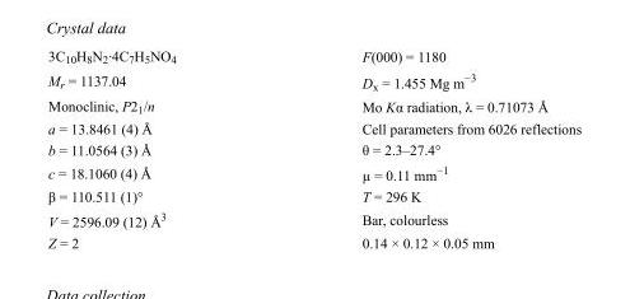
<table><tbody><tr><td>3C<sub>10</sub>H<sub>8</sub>N<sub>2</sub>·4C<sub>7</sub>H<sub>5</sub>NO<sub>4</sub></td><td>F(000) = 1180</td></tr><tr><td>M<sub>r</sub> = 1137.04</td><td>D<sub>x</sub> = 1.455 Mg m<sup>−3</sup></td></tr><tr><td>Monoclinic, P2<sub>1</sub>/n</td><td>Mo Kα radiation, λ = 0.71073 Å</td></tr><tr><td>a = 13.8461 (4) Å</td><td>Cell parameters from 6026 reflections</td></tr><tr><td>b = 11.0564 (3) Å</td><td>θ = 2.3–27.4°</td></tr><tr><td>c = 18.1060 (4) Å</td><td>µ = 0.11 mm<sup>−1</sup></td></tr><tr><td>β = 110.511 (1)°</td><td>T = 296 K</td></tr><tr><td>V = 2596.09 (12) Å<sup>3</sup></td><td>Bar, colourless</td></tr><tr><td>Z = 2</td><td>0.14 × 0.12 × 0.05 mm</td></tr></tbody></table>